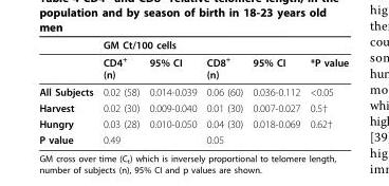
<table><thead><tr><td rowspan="2"></td><td colspan="5">GM Ct/100 cells</td></tr><tr><td>CD4<sup>+</sup> (n)</td><td>95% CI</td><td>CD8<sup>+</sup> (n)</td><td>95% CI</td><td>*P value</td></tr></thead><tbody><tr><td>All Subjects</td><td>0.02 (58)</td><td>0.014-0.039</td><td>0.06 (60)</td><td>0.036-0.112</td><td>&lt;0.05</td></tr><tr><td>Harvest</td><td>0.02 (30)</td><td>0.009-0.040</td><td>0.01 (30)</td><td>0.007-0.027</td><td>0.5†</td></tr><tr><td>Hungry</td><td>0.03 (28)</td><td>0.010-0.050</td><td>0.04 (30)</td><td>0.018-0.069</td><td>0.62†</td></tr><tr><td>P value</td><td>0.49</td><td></td><td>0.05</td><td></td><td></td></tr></tbody></table>